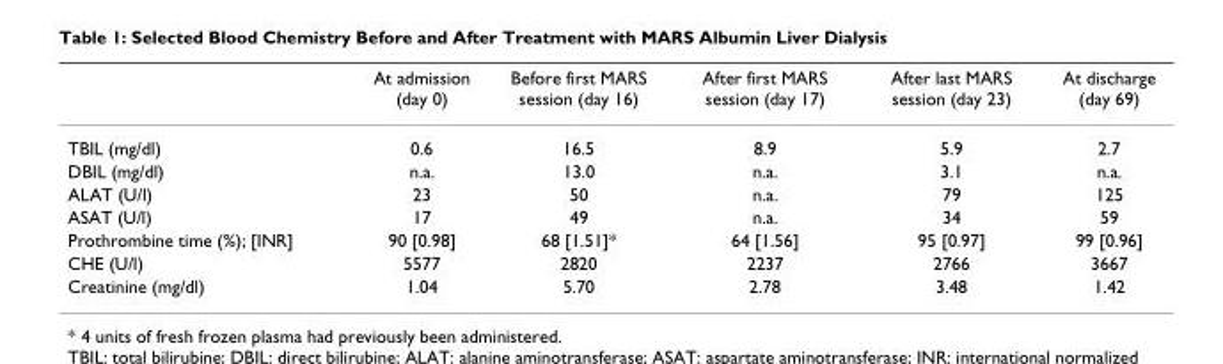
<table><thead><tr><td></td><td>At admission (day 0)</td><td>Before first MARS session (day 16)</td><td>After first MARS session (day 17)</td><td>After last MARS session (day 23)</td><td>At discharge (day 69)</td></tr></thead><tbody><tr><td>TBIL (mg/dl)</td><td>0.6</td><td>16.5</td><td>8.9</td><td>5.9</td><td>2.7</td></tr><tr><td>DBIL (mg/dl)</td><td>n.a.</td><td>13.0</td><td>n.a.</td><td>3.1</td><td>n.a.</td></tr><tr><td>ALAT (U/l)</td><td>23</td><td>50</td><td>n.a.</td><td>79</td><td>125</td></tr><tr><td>ASAT (U/l)</td><td>17</td><td>49</td><td>n.a.</td><td>34</td><td>59</td></tr><tr><td>Prothrombine time (%); [INR]</td><td>90 [0.98]</td><td>68 [1.51]*</td><td>64 [1.56]</td><td>95 [0.97]</td><td>99 [0.96]</td></tr><tr><td>CHE (U/l)</td><td>5577</td><td>2820</td><td>2237</td><td>2766</td><td>3667</td></tr><tr><td>Creatinine (mg/dl)</td><td>1.04</td><td>5.70</td><td>2.78</td><td>3.48</td><td>1.42</td></tr></tbody></table>